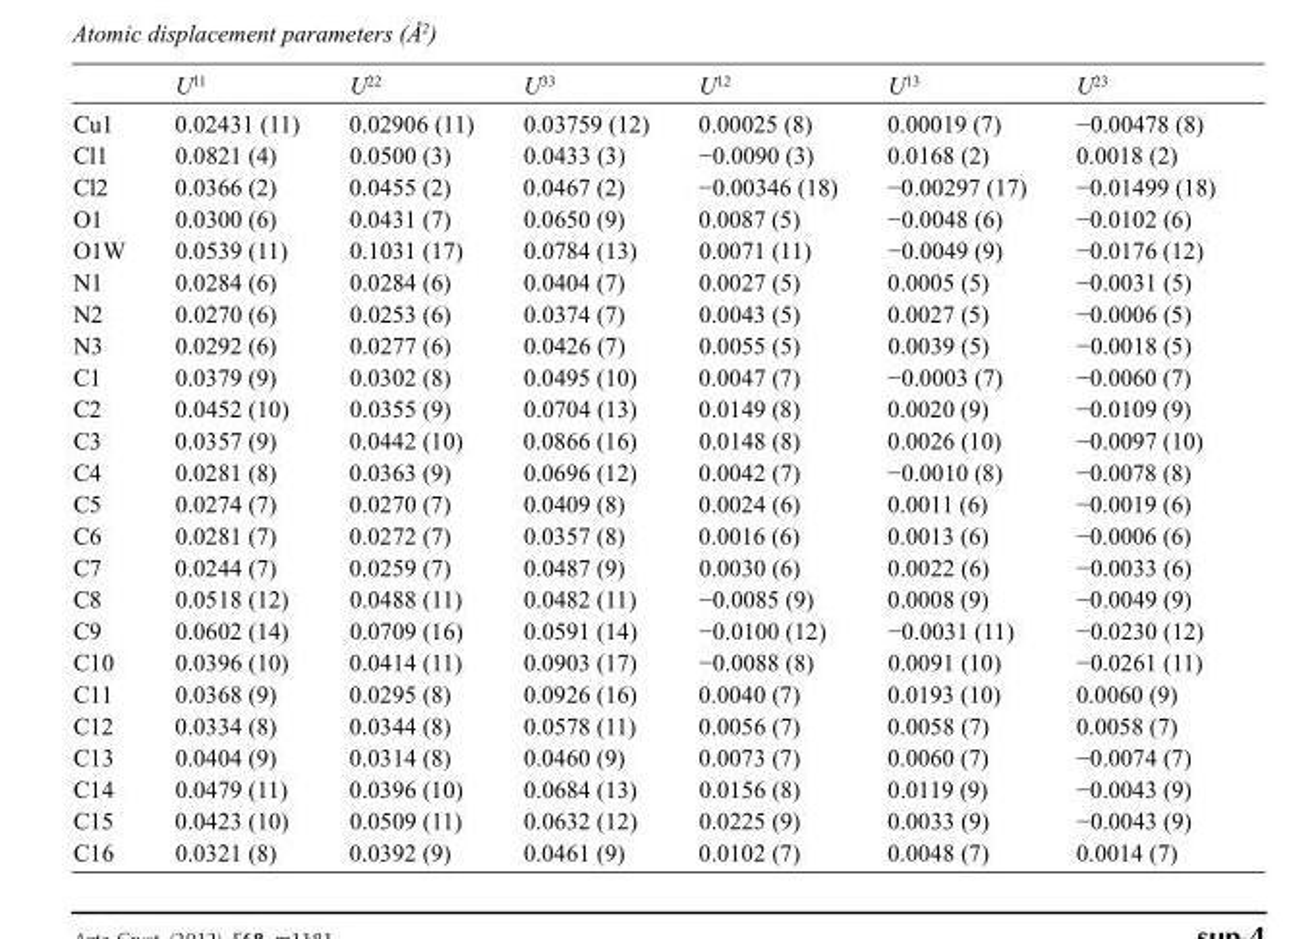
<table><thead><tr><td></td><td>U<sup>11</sup></td><td>U<sup>22</sup></td><td>U<sup>33</sup></td><td>U<sup>12</sup></td><td>U<sup>13</sup></td><td>U<sup>23</sup></td></tr></thead><tbody><tr><td>Cu1</td><td>0.02431 (11)</td><td>0.02906 (11)</td><td>0.03759 (12)</td><td>0.00025 (8)</td><td>0.00019 (7)</td><td>−0.00478 (8)</td></tr><tr><td>Cl1</td><td>0.0821 (4)</td><td>0.0500 (3)</td><td>0.0433 (3)</td><td>−0.0090 (3)</td><td>0.0168 (2)</td><td>0.0018 (2)</td></tr><tr><td>Cl2</td><td>0.0366 (2)</td><td>0.0455 (2)</td><td>0.0467 (2)</td><td>−0.00346 (18)</td><td>−0.00297 (17)</td><td>−0.01499 (18)</td></tr><tr><td>O1</td><td>0.0300 (6)</td><td>0.0431 (7)</td><td>0.0650 (9)</td><td>0.0087 (5)</td><td>−0.0048 (6)</td><td>−0.0102 (6)</td></tr><tr><td>O1W</td><td>0.0539 (11)</td><td>0.1031 (17)</td><td>0.0784 (13)</td><td>0.0071 (11)</td><td>−0.0049 (9)</td><td>−0.0176 (12)</td></tr><tr><td>N1</td><td>0.0284 (6)</td><td>0.0284 (6)</td><td>0.0404 (7)</td><td>0.0027 (5)</td><td>0.0005 (5)</td><td>−0.0031 (5)</td></tr><tr><td>N2</td><td>0.0270 (6)</td><td>0.0253 (6)</td><td>0.0374 (7)</td><td>0.0043 (5)</td><td>0.0027 (5)</td><td>−0.0006 (5)</td></tr><tr><td>N3</td><td>0.0292 (6)</td><td>0.0277 (6)</td><td>0.0426 (7)</td><td>0.0055 (5)</td><td>0.0039 (5)</td><td>−0.0018 (5)</td></tr><tr><td>C1</td><td>0.0379 (9)</td><td>0.0302 (8)</td><td>0.0495 (10)</td><td>0.0047 (7)</td><td>−0.0003 (7)</td><td>−0.0060 (7)</td></tr><tr><td>C2</td><td>0.0452 (10)</td><td>0.0355 (9)</td><td>0.0704 (13)</td><td>0.0149 (8)</td><td>0.0020 (9)</td><td>−0.0109 (9)</td></tr><tr><td>C3</td><td>0.0357 (9)</td><td>0.0442 (10)</td><td>0.0866 (16)</td><td>0.0148 (8)</td><td>0.0026 (10)</td><td>−0.0097 (10)</td></tr><tr><td>C4</td><td>0.0281 (8)</td><td>0.0363 (9)</td><td>0.0696 (12)</td><td>0.0042 (7)</td><td>−0.0010 (8)</td><td>−0.0078 (8)</td></tr><tr><td>C5</td><td>0.0274 (7)</td><td>0.0270 (7)</td><td>0.0409 (8)</td><td>0.0024 (6)</td><td>0.0011 (6)</td><td>−0.0019 (6)</td></tr><tr><td>C6</td><td>0.0281 (7)</td><td>0.0272 (7)</td><td>0.0357 (8)</td><td>0.0016 (6)</td><td>0.0013 (6)</td><td>−0.0006 (6)</td></tr><tr><td>C7</td><td>0.0244 (7)</td><td>0.0259 (7)</td><td>0.0487 (9)</td><td>0.0030 (6)</td><td>0.0022 (6)</td><td>−0.0033 (6)</td></tr><tr><td>C8</td><td>0.0518 (12)</td><td>0.0488 (11)</td><td>0.0482 (11)</td><td>−0.0085 (9)</td><td>0.0008 (9)</td><td>−0.0049 (9)</td></tr><tr><td>C9</td><td>0.0602 (14)</td><td>0.0709 (16)</td><td>0.0591 (14)</td><td>−0.0100 (12)</td><td>−0.0031 (11)</td><td>−0.0230 (12)</td></tr><tr><td>C10</td><td>0.0396 (10)</td><td>0.0414 (11)</td><td>0.0903 (17)</td><td>−0.0088 (8)</td><td>0.0091 (10)</td><td>−0.0261 (11)</td></tr><tr><td>C11</td><td>0.0368 (9)</td><td>0.0295 (8)</td><td>0.0926 (16)</td><td>0.0040 (7)</td><td>0.0193 (10)</td><td>0.0060 (9)</td></tr><tr><td>C12</td><td>0.0334 (8)</td><td>0.0344 (8)</td><td>0.0578 (11)</td><td>0.0056 (7)</td><td>0.0058 (7)</td><td>0.0058 (7)</td></tr><tr><td>C13</td><td>0.0404 (9)</td><td>0.0314 (8)</td><td>0.0460 (9)</td><td>0.0073 (7)</td><td>0.0060 (7)</td><td>−0.0074 (7)</td></tr><tr><td>C14</td><td>0.0479 (11)</td><td>0.0396 (10)</td><td>0.0684 (13)</td><td>0.0156 (8)</td><td>0.0119 (9)</td><td>−0.0043 (9)</td></tr><tr><td>C15</td><td>0.0423 (10)</td><td>0.0509 (11)</td><td>0.0632 (12)</td><td>0.0225 (9)</td><td>0.0033 (9)</td><td>−0.0043 (9)</td></tr><tr><td>C16</td><td>0.0321 (8)</td><td>0.0392 (9)</td><td>0.0461 (9)</td><td>0.0102 (7)</td><td>0.0048 (7)</td><td>0.0014 (7)</td></tr></tbody></table>